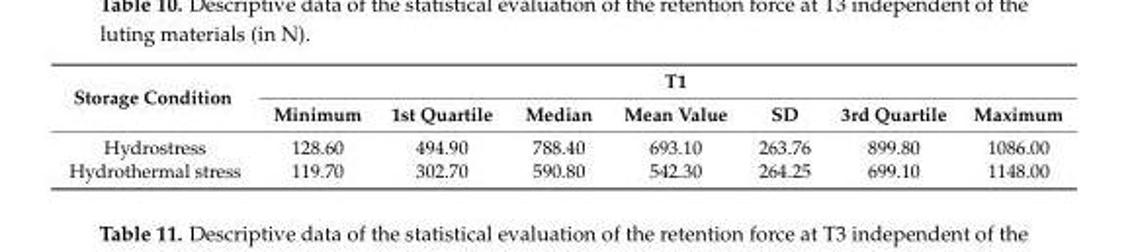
<table><thead><tr><td rowspan="2">Storage Condition</td><td rowspan="2">Minimum</td><td rowspan="2">1st Quartile</td><td rowspan="2">Median</td><td rowspan="2">T1 Mean Value</td><td rowspan="2">SD</td><td rowspan="2">3rd Quartile</td><td rowspan="2">Maximum</td></tr><tr></tr></thead><tbody><tr><td>Hydrostress</td><td>128.60</td><td>494.90</td><td>788.40</td><td>693.10</td><td>263.76</td><td>899.80</td><td>1086.00</td></tr><tr><td>Hydrothermal stress</td><td>119.70</td><td>302.70</td><td>590.80</td><td>542.30</td><td>264.25</td><td>699.10</td><td>1148.00</td></tr></tbody></table>